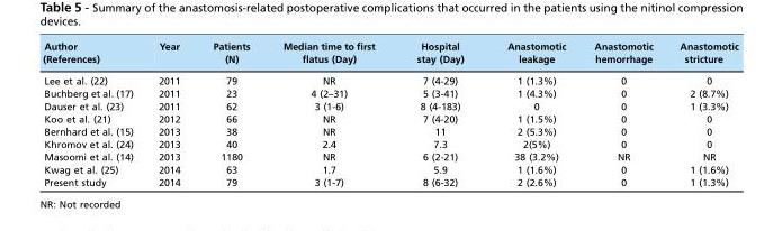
<table><thead><tr><td>Author (References)</td><td>Year</td><td>Patients (N)</td><td>Median time to first flatus (Day)</td><td>Hospital stay (Day)</td><td>Anastomotic leakage</td><td>Anastomotic hemorrhage</td><td>Anastomotic stricture</td></tr></thead><tbody><tr><td>Lee et al. (22)</td><td>2011</td><td>79</td><td>NR</td><td>7 (4-29)</td><td>1 (1.3%)</td><td>0</td><td>0</td></tr><tr><td>Buchberg et al. (17)</td><td>2011</td><td>23</td><td>4 (2–31)</td><td>5 (3-41)</td><td>1 (4.3%)</td><td>0</td><td>2 (8.7%)</td></tr><tr><td>Dauser et al. (23)</td><td>2011</td><td>62</td><td>3 (1-6)</td><td>8 (4-183)</td><td>0</td><td>0</td><td>1 (3.3%)</td></tr><tr><td>Koo et al. (21)</td><td>2012</td><td>66</td><td>NR</td><td>7 (4-20)</td><td>1 (1.5%)</td><td>0</td><td>0</td></tr><tr><td>Bernhard et al. (15)</td><td>2013</td><td>38</td><td>NR</td><td>11</td><td>2 (5.3%)</td><td>0</td><td>0</td></tr><tr><td>Khromov et al. (24)</td><td>2013</td><td>40</td><td>2.4</td><td>7.3</td><td>2(5%)</td><td>0</td><td>0</td></tr><tr><td>Masoomi et al. (14)</td><td>2013</td><td>1180</td><td>NR</td><td>6 (2-21)</td><td>38 (3.2%)</td><td>NR</td><td>NR</td></tr><tr><td>Kwag et al. (25)</td><td>2014</td><td>63</td><td>1.7</td><td>5.9</td><td>1 (1.6%)</td><td>0</td><td>1 (1.6%)</td></tr><tr><td>Present study</td><td>2014</td><td>79</td><td>3 (1-7)</td><td>8 (6-32)</td><td>2 (2.6%)</td><td>0</td><td>1 (1.3%)</td></tr></tbody></table>